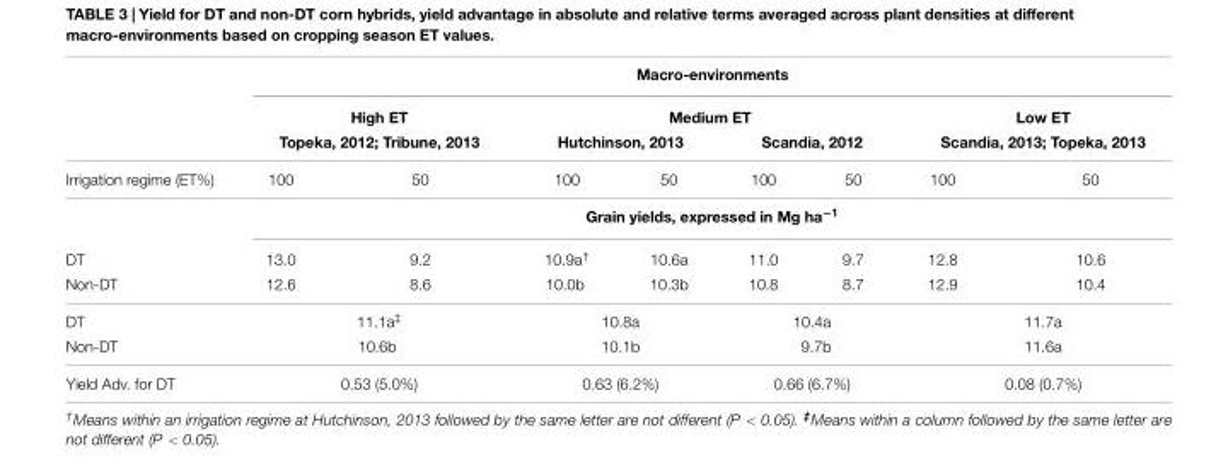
<table><thead><tr><td rowspan="4">Irrigation regime (ET%)</td><td colspan="8">Macro-environments</td></tr><tr><td rowspan="2" colspan="2">High ET Topeka, 2012; Tribune, 2013</td><td colspan="4">Medium ET</td><td rowspan="2" colspan="2">Low ET Scandia, 2013; Topeka, 2013</td></tr><tr><td colspan="2">Hutchinson, 2013</td><td colspan="2">Scandia, 2012</td></tr><tr><td>100</td><td>50</td><td>100</td><td>50</td><td>100</td><td>50</td><td>100</td><td>50</td></tr></thead><tbody><tr><td></td><td colspan="8">Grain yields, expressed in Mg ha<sup>−1</sup></td></tr><tr><td>DT</td><td>13.0</td><td>9.2</td><td>10.9a†</td><td>10.6a</td><td>11.0</td><td>9.7</td><td>12.8</td><td>10.6</td></tr><tr><td>Non-DT</td><td>12.6</td><td>8.6</td><td>10.0b</td><td>10.3b</td><td>10.8</td><td>8.7</td><td>12.9</td><td>10.4</td></tr><tr><td>DT</td><td colspan="2">11.1a‡</td><td colspan="2">10.8a</td><td colspan="2">10.4a</td><td colspan="2">11.7a</td></tr><tr><td>Non-DT</td><td colspan="2">10.6b</td><td colspan="2">10.1b</td><td colspan="2">9.7b</td><td colspan="2">11.6a</td></tr><tr><td>Yield Adv. for DT</td><td colspan="2">0.53 (5.0%)</td><td colspan="2">0.63 (6.2%)</td><td colspan="2">0.66 (6.7%)</td><td colspan="2">0.08 (0.7%)</td></tr></tbody></table>